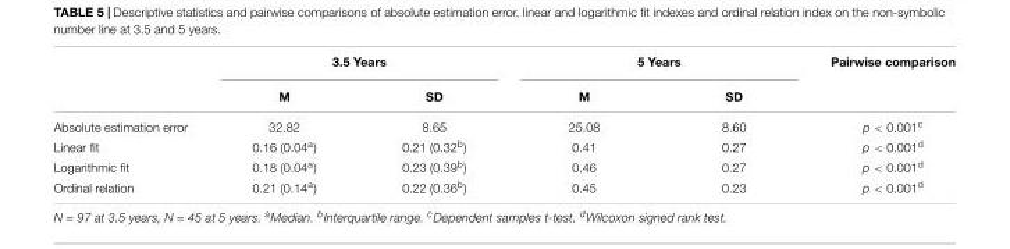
<table><thead><tr><td rowspan="2"></td><td colspan="2">3.5 Years</td><td colspan="2">5 Years</td><td rowspan="2">Pairwise comparison</td></tr><tr><td>M</td><td>SD</td><td>M</td><td>SD</td></tr></thead><tbody><tr><td>Absolute estimation error</td><td>32.82</td><td>8.65</td><td>25.08</td><td>8.60</td><td>p &lt; 0.001<sup>c</sup></td></tr><tr><td>Linear fit</td><td>0.16 (0.04<sup>a</sup>)</td><td>0.21 (0.32<sup>b</sup>)</td><td>0.41</td><td>0.27</td><td>p &lt; 0.001<sup>d</sup></td></tr><tr><td>Logarithmic fit</td><td>0.18 (0.04<sup>a</sup>)</td><td>0.23 (0.39<sup>b</sup>)</td><td>0.46</td><td>0.27</td><td>p &lt; 0.001<sup>d</sup></td></tr><tr><td>Ordinal relation</td><td>0.21 (0.14<sup>a</sup>)</td><td>0.22 (0.36<sup>b</sup>)</td><td>0.45</td><td>0.23</td><td>p &lt; 0.001<sup>d</sup></td></tr></tbody></table>